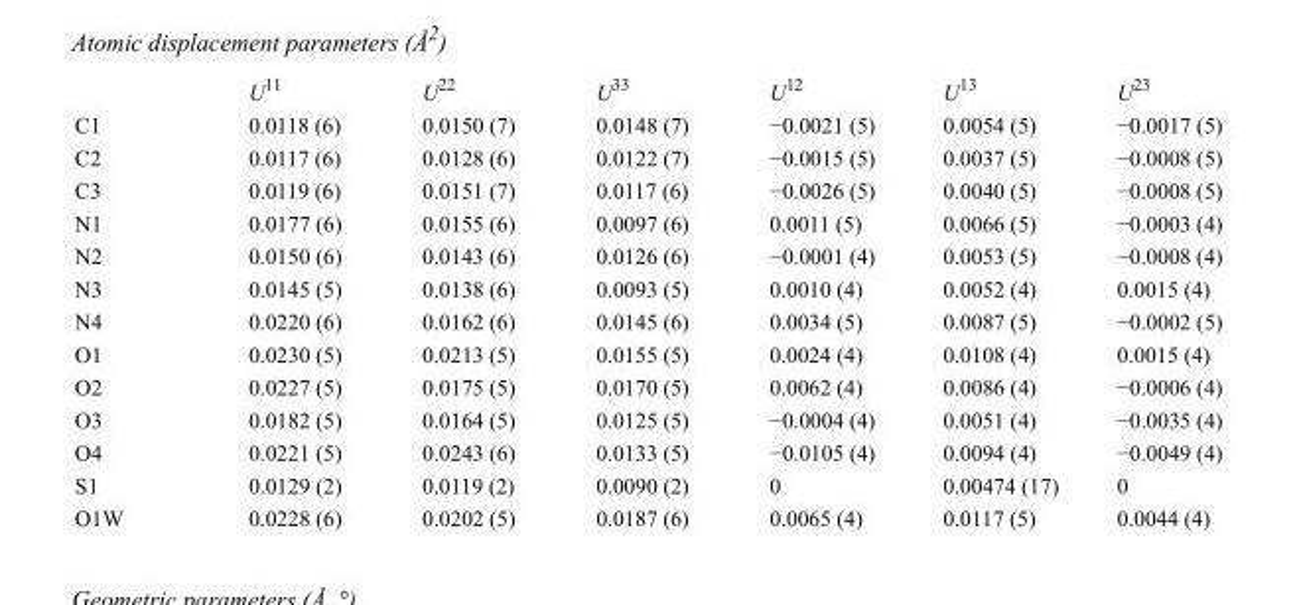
<table><thead><tr><td></td><td>U<sup>11</sup></td><td>U<sup>22</sup></td><td>U<sup>33</sup></td><td>U<sup>12</sup></td><td>U<sup>13</sup></td><td>U<sup>23</sup></td></tr></thead><tbody><tr><td>C1</td><td>0.0118 (6)</td><td>0.0150 (7)</td><td>0.0148 (7)</td><td>−0.0021 (5)</td><td>0.0054 (5)</td><td>−0.0017 (5)</td></tr><tr><td>C2</td><td>0.0117 (6)</td><td>0.0128 (6)</td><td>0.0122 (7)</td><td>−0.0015 (5)</td><td>0.0037 (5)</td><td>−0.0008 (5)</td></tr><tr><td>C3</td><td>0.0119 (6)</td><td>0.0151 (7)</td><td>0.0117 (6)</td><td>−0.0026 (5)</td><td>0.0040 (5)</td><td>−0.0008 (5)</td></tr><tr><td>N1</td><td>0.0177 (6)</td><td>0.0155 (6)</td><td>0.0097 (6)</td><td>0.0011 (5)</td><td>0.0066 (5)</td><td>−0.0003 (4)</td></tr><tr><td>N2</td><td>0.0150 (6)</td><td>0.0143 (6)</td><td>0.0126 (6)</td><td>−0.0001 (4)</td><td>0.0053 (5)</td><td>−0.0008 (4)</td></tr><tr><td>N3</td><td>0.0145 (5)</td><td>0.0138 (6)</td><td>0.0093 (5)</td><td>0.0010 (4)</td><td>0.0052 (4)</td><td>0.0015 (4)</td></tr><tr><td>N4</td><td>0.0220 (6)</td><td>0.0162 (6)</td><td>0.0145 (6)</td><td>0.0034 (5)</td><td>0.0087 (5)</td><td>−0.0002 (5)</td></tr><tr><td>O1</td><td>0.0230 (5)</td><td>0.0213 (5)</td><td>0.0155 (5)</td><td>0.0024 (4)</td><td>0.0108 (4)</td><td>0.0015 (4)</td></tr><tr><td>O2</td><td>0.0227 (5)</td><td>0.0175 (5)</td><td>0.0170 (5)</td><td>0.0062 (4)</td><td>0.0086 (4)</td><td>−0.0006 (4)</td></tr><tr><td>O3</td><td>0.0182 (5)</td><td>0.0164 (5)</td><td>0.0125 (5)</td><td>−0.0004 (4)</td><td>0.0051 (4)</td><td>−0.0035 (4)</td></tr><tr><td>O4</td><td>0.0221 (5)</td><td>0.0243 (6)</td><td>0.0133 (5)</td><td>−0.0105 (4)</td><td>0.0094 (4)</td><td>−0.0049 (4)</td></tr><tr><td>S1</td><td>0.0129 (2)</td><td>0.0119 (2)</td><td>0.0090 (2)</td><td>0</td><td>0.00474 (17)</td><td>0</td></tr><tr><td>O1W</td><td>0.0228 (6)</td><td>0.0202 (5)</td><td>0.0187 (6)</td><td>0.0065 (4)</td><td>0.0117 (5)</td><td>0.0044 (4)</td></tr></tbody></table>